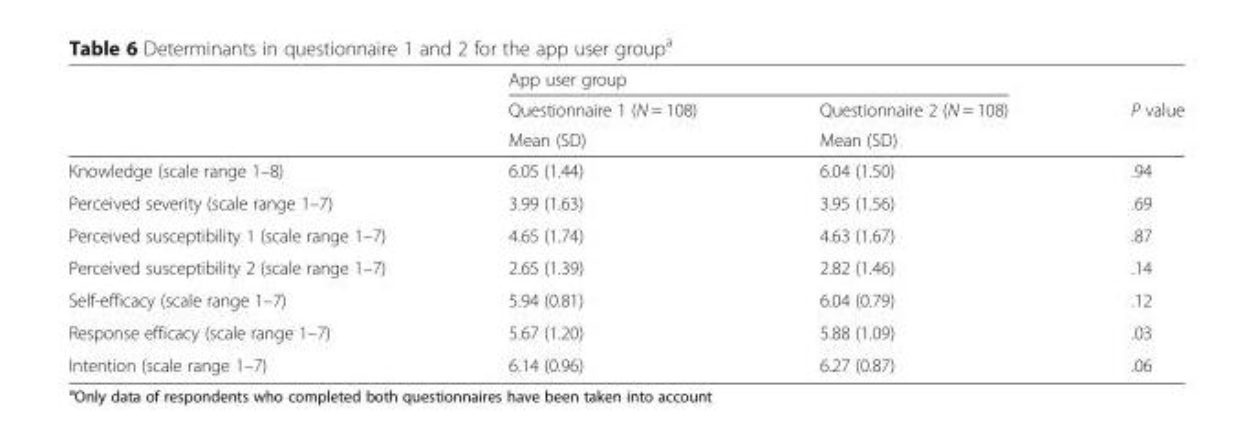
<table><thead><tr><td rowspan="3"></td><td colspan="2">App user group</td><td rowspan="3">P value</td></tr><tr><td rowspan="2">Questionnaire 1 (N = 108) Mean (SD)</td><td rowspan="2">Questionnaire 2 (N = 108) Mean (SD)</td></tr><tr></tr></thead><tbody><tr><td>Knowledge (scale range 1–8)</td><td>6.05 (1.44)</td><td>6.04 (1.50)</td><td>.94</td></tr><tr><td>Perceived severity (scale range 1–7)</td><td>3.99 (1.63)</td><td>3.95 (1.56)</td><td>.69</td></tr><tr><td>Perceived susceptibility 1 (scale range 1–7)</td><td>4.65 (1.74)</td><td>4.63 (1.67)</td><td>.87</td></tr><tr><td>Perceived susceptibility 2 (scale range 1–7)</td><td>2.65 (1.39)</td><td>2.82 (1.46)</td><td>.14</td></tr><tr><td>Self-efficacy (scale range 1–7)</td><td>5.94 (0.81)</td><td>6.04 (0.79)</td><td>.12</td></tr><tr><td>Response efficacy (scale range 1–7)</td><td>5.67 (1.20)</td><td>5.88 (1.09)</td><td>.03</td></tr><tr><td>Intention (scale range 1–7)</td><td>6.14 (0.96)</td><td>6.27 (0.87)</td><td>.06</td></tr></tbody></table>